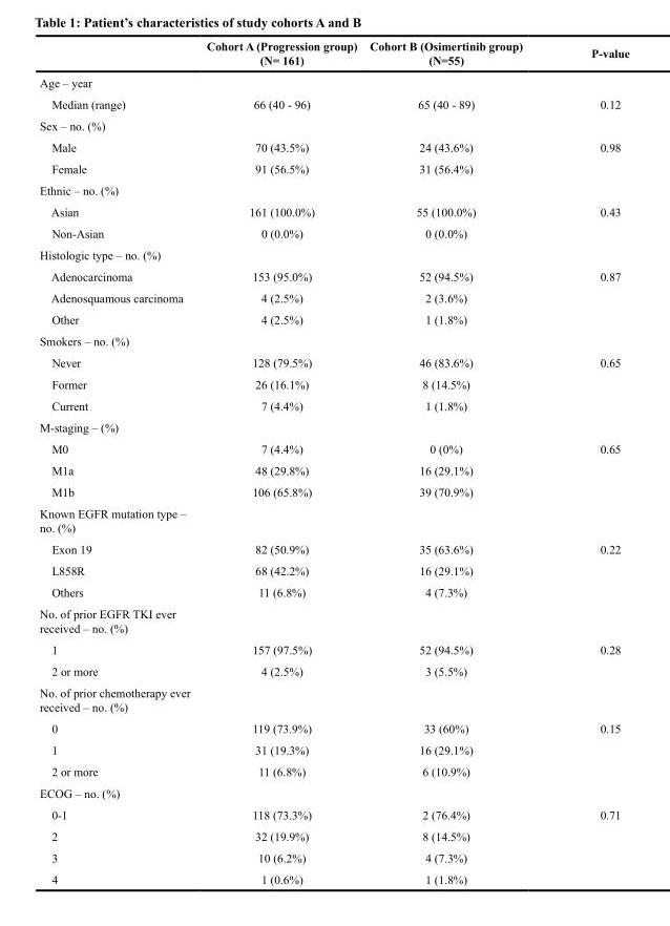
<table><thead><tr><td></td><td>Cohort A (Progression group) (N= 161)</td><td>Cohort B (Osimertinib group) (N=55)</td><td>P-value</td></tr></thead><tbody><tr><td colspan="4">Age – year</td></tr><tr><td>Median (range)</td><td>66 (40 - 96)</td><td>65 (40 - 89)</td><td>0.12</td></tr><tr><td colspan="4">Sex – no. (%)</td></tr><tr><td>Male</td><td>70 (43.5%)</td><td>24 (43.6%)</td><td>0.98</td></tr><tr><td>Female</td><td>91 (56.5%)</td><td>31 (56.4%)</td><td></td></tr><tr><td colspan="4">Ethnic – no. (%)</td></tr><tr><td>Asian</td><td>161 (100.0%)</td><td>55 (100.0%)</td><td>0.43</td></tr><tr><td>Non-Asian</td><td>0 (0.0%)</td><td>0 (0.0%)</td><td></td></tr><tr><td colspan="4">Histologic type – no. (%)</td></tr><tr><td>Adenocarcinoma</td><td>153 (95.0%)</td><td>52 (94.5%)</td><td>0.87</td></tr><tr><td>Adenosquamous carcinoma</td><td>4 (2.5%)</td><td>2 (3.6%)</td><td></td></tr><tr><td>Other</td><td>4 (2.5%)</td><td>1 (1.8%)</td><td></td></tr><tr><td colspan="4">Smokers – no. (%)</td></tr><tr><td>Never</td><td>128 (79.5%)</td><td>46 (83.6%)</td><td>0.65</td></tr><tr><td>Former</td><td>26 (16.1%)</td><td>8 (14.5%)</td><td></td></tr><tr><td>Current</td><td>7 (4.4%)</td><td>1 (1.8%)</td><td></td></tr><tr><td colspan="4">M-staging – (%)</td></tr><tr><td>M0</td><td>7 (4.4%)</td><td>0 (0%)</td><td>0.65</td></tr><tr><td>M1a</td><td>48 (29.8%)</td><td>16 (29.1%)</td><td></td></tr><tr><td>M1b</td><td>106 (65.8%)</td><td>39 (70.9%)</td><td></td></tr><tr><td colspan="4">Known EGFR mutation type – no. (%)</td></tr><tr><td>Exon 19</td><td>82 (50.9%)</td><td>35 (63.6%)</td><td>0.22</td></tr><tr><td>L858R</td><td>68 (42.2%)</td><td>16 (29.1%)</td><td></td></tr><tr><td>Others</td><td>11 (6.8%)</td><td>4 (7.3%)</td><td></td></tr><tr><td colspan="4">No. of prior EGFR TKI ever received – no. (%)</td></tr><tr><td>1</td><td>157 (97.5%)</td><td>52 (94.5%)</td><td>0.28</td></tr><tr><td>2 or more</td><td>4 (2.5%)</td><td>3 (5.5%)</td><td></td></tr><tr><td colspan="4">No. of prior chemotherapy ever received – no. (%)</td></tr><tr><td>0</td><td>119 (73.9%)</td><td>33 (60%)</td><td>0.15</td></tr><tr><td>1</td><td>31 (19.3%)</td><td>16 (29.1%)</td><td></td></tr><tr><td>2 or more</td><td>11 (6.8%)</td><td>6 (10.9%)</td><td></td></tr><tr><td colspan="4">ECOG – no. (%)</td></tr><tr><td>0-1</td><td>118 (73.3%)</td><td>2 (76.4%)</td><td>0.71</td></tr><tr><td>2</td><td>32 (19.9%)</td><td>8 (14.5%)</td><td></td></tr><tr><td>3</td><td>10 (6.2%)</td><td>4 (7.3%)</td><td></td></tr><tr><td>4</td><td>1 (0.6%)</td><td>1 (1.8%)</td><td></td></tr></tbody></table>